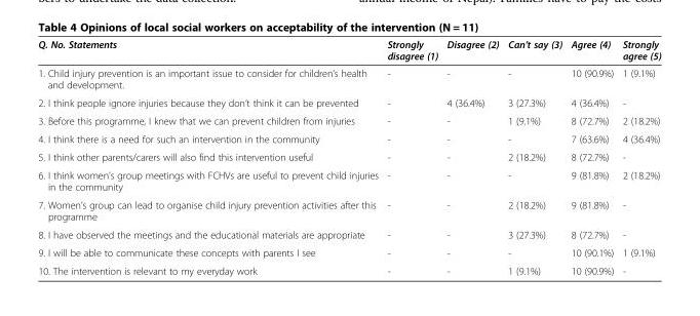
<table><thead><tr><td>Q. No. Statements</td><td>Strongly disagree (1)</td><td>Disagree (2)</td><td>Can’t say (3)</td><td>Agree (4)</td><td>Strongly agree (5)</td></tr></thead><tbody><tr><td>1. Child injury prevention is an important issue to consider for children’s health and development.</td><td>-</td><td>-</td><td>-</td><td>10 (90.9%)</td><td>1 (9.1%)</td></tr><tr><td>2. I think people ignore injuries because they don’t think it can be prevented</td><td>-</td><td>4 (36.4%)</td><td>3 (27.3%)</td><td>4 (36.4%)</td><td>-</td></tr><tr><td>3. Before this programme, I knew that we can prevent children from injuries</td><td>-</td><td>-</td><td>1 (9.1%)</td><td>8 (72.7%)</td><td>2 (18.2%)</td></tr><tr><td>4. I think there is a need for such an intervention in the community</td><td>-</td><td>-</td><td>-</td><td>7 (63.6%)</td><td>4 (36.4%)</td></tr><tr><td>5. I think other parents/carers will also find this intervention useful</td><td>-</td><td>-</td><td>2 (18.2%)</td><td>8 (72.7%)</td><td>-</td></tr><tr><td>6. I think women’s group meetings with FCHVs are useful to prevent child injuries in the community</td><td>-</td><td>-</td><td>-</td><td>9 (81.8%)</td><td>2 (18.2%)</td></tr><tr><td>7. Women’s group can lead to organise child injury prevention activities after this programme</td><td>-</td><td>-</td><td>2 (18.2%)</td><td>9 (81.8%)</td><td>-</td></tr><tr><td>8. I have observed the meetings and the educational materials are appropriate</td><td>-</td><td>-</td><td>3 (27.3%)</td><td>8 (72.7%)</td><td>-</td></tr><tr><td>9. I will be able to communicate these concepts with parents I see</td><td>-</td><td>-</td><td>-</td><td>10 (90.1%)</td><td>1 (9.1%)</td></tr><tr><td>10. The intervention is relevant to my everyday work</td><td>-</td><td>-</td><td>1 (9.1%)</td><td>10 (90.9%)</td><td>-</td></tr></tbody></table>